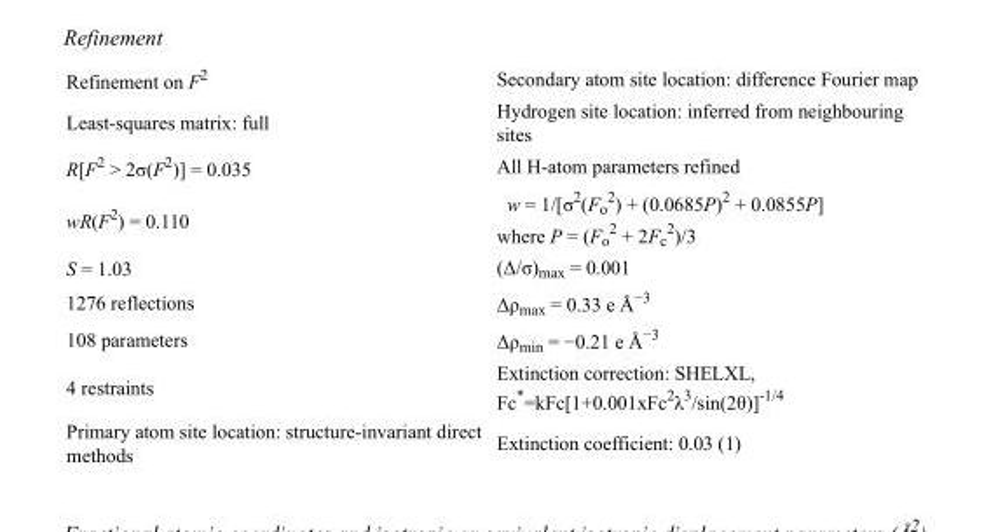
<table><tbody><tr><td>Refinement on F<sup>2</sup></td><td>Secondary atom site location: difference Fourier map</td></tr><tr><td>Least-squares matrix: full</td><td>Hydrogen site location: inferred from neighbouring sites</td></tr><tr><td>R[F<sup>2</sup> &gt; 2σ(F<sup>2</sup>)] = 0.035</td><td>All H-atom parameters refined</td></tr><tr><td>wR(F<sup>2</sup>) = 0.110</td><td>w = 1/[σ<sup>2</sup>(F<sub>o</sub> <sup>2</sup>) + (0.0685P)<sup>2</sup> + 0.0855P] where P = (F<sub>o</sub> <sup>2</sup> + 2F<sub>c</sub> <sup>2</sup>)/3</td></tr><tr><td>S = 1.03</td><td>(Δ/σ)<sub>max</sub> = 0.001</td></tr><tr><td>1276 reflections</td><td>Δρ<sub>max</sub> = 0.33 e Å<sup>−3</sup></td></tr><tr><td>108 parameters</td><td>Δρ<sub>min</sub> = −0.21 e Å<sup>−3</sup></td></tr><tr><td>4 restraints</td><td>Extinction correction: SHELXL, Fc*=kFc[1+0.001xFc<sup>2</sup>λ<sup>3</sup>/sin(2θ)]<sup>-1/4</sup></td></tr><tr><td>Primary atom site location: structure-invariant direct methods</td><td>Extinction coefficient: 0.03 (1)</td></tr></tbody></table>